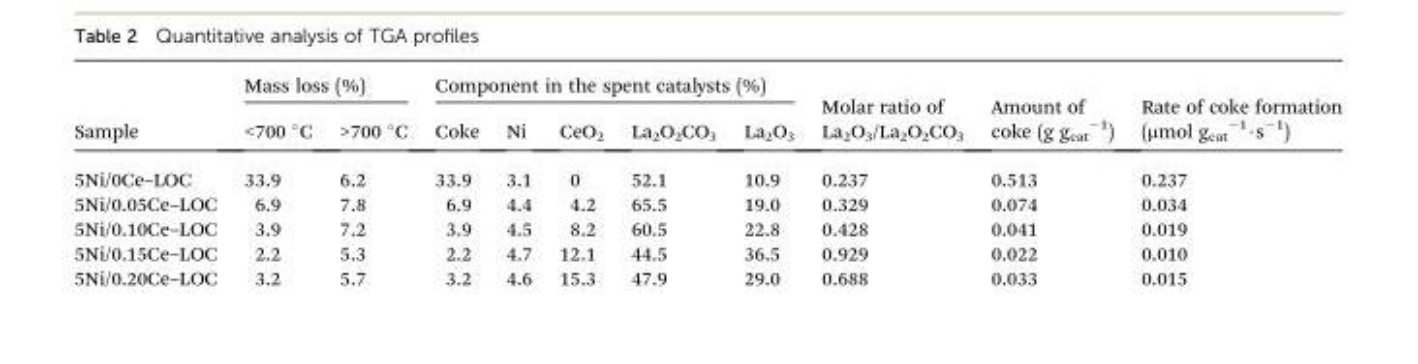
<table><thead><tr><td rowspan="2">Sample</td><td colspan="2">Mass loss (%)</td><td colspan="5">Component in the spent catalysts (%)</td><td rowspan="2">Molar ratio of La<sub>2</sub>O<sub>3</sub>/La<sub>2</sub>O<sub>2</sub>CO<sub>3</sub></td><td rowspan="2">Amount of coke (g g<sub>cat</sub> <sup>–1</sup>)</td><td rowspan="2">Rate of coke formation (μmol g<sub>cat</sub> <sup>–1</sup>·s<sup>–1</sup>)</td></tr><tr><td>&lt;700 °C</td><td>&gt;700 °C</td><td>Coke</td><td>Ni</td><td>CeO<sub>2</sub></td><td>La<sub>2</sub>O<sub>2</sub>CO<sub>3</sub></td><td>La<sub>2</sub>O<sub>3</sub></td></tr></thead><tbody><tr><td>5Ni/0Ce–LOC</td><td>33.9</td><td>6.2</td><td>33.9</td><td>3.1</td><td>0</td><td>52.1</td><td>10.9</td><td>0.237</td><td>0.513</td><td>0.237</td></tr><tr><td>5Ni/0.05Ce–LOC</td><td>6.9</td><td>7.8</td><td>6.9</td><td>4.4</td><td>4.2</td><td>65.5</td><td>19.0</td><td>0.329</td><td>0.074</td><td>0.034</td></tr><tr><td>5Ni/0.10Ce–LOC</td><td>3.9</td><td>7.2</td><td>3.9</td><td>4.5</td><td>8.2</td><td>60.5</td><td>22.8</td><td>0.428</td><td>0.041</td><td>0.019</td></tr><tr><td>5Ni/0.15Ce–LOC</td><td>2.2</td><td>5.3</td><td>2.2</td><td>4.7</td><td>12.1</td><td>44.5</td><td>36.5</td><td>0.929</td><td>0.022</td><td>0.010</td></tr><tr><td>5Ni/0.20Ce–LOC</td><td>3.2</td><td>5.7</td><td>3.2</td><td>4.6</td><td>15.3</td><td>47.9</td><td>29.0</td><td>0.688</td><td>0.033</td><td>0.015</td></tr></tbody></table>